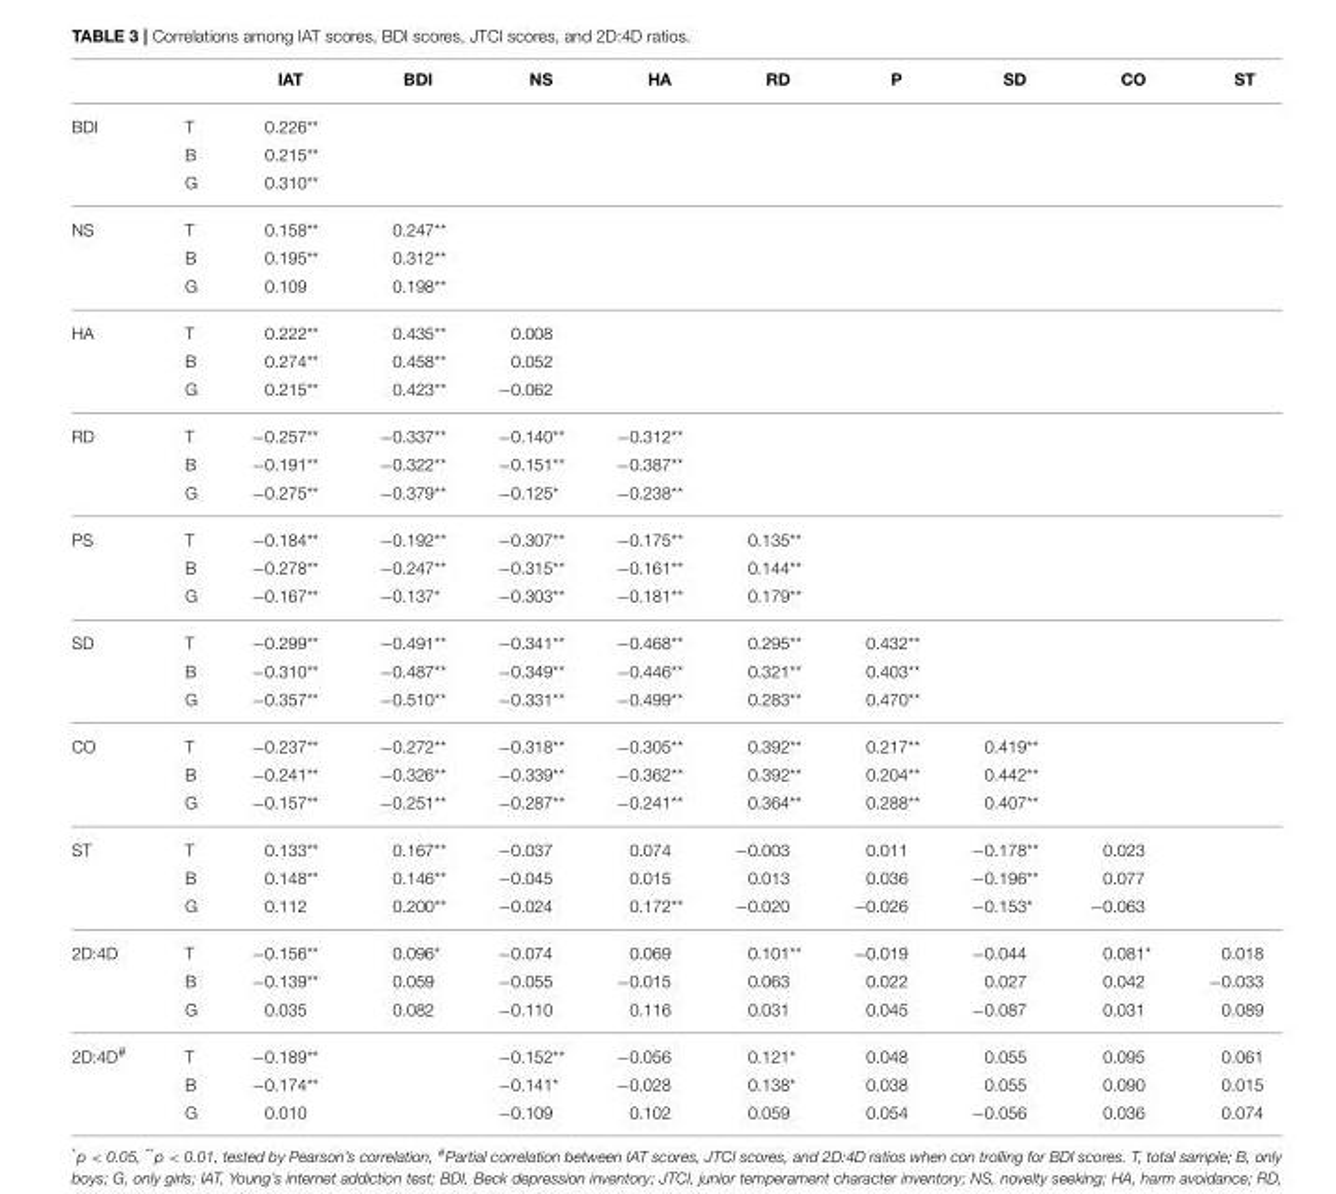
<table><thead><tr><td></td><td></td><td>IAT</td><td>BDI</td><td>NS</td><td>HA</td><td>RD</td><td>P</td><td>SD</td><td>CO</td><td>ST</td></tr></thead><tbody><tr><td rowspan="3">BDI</td><td>T</td><td>0.226**</td><td></td><td></td><td></td><td></td><td></td><td></td><td></td><td></td></tr><tr><td>B</td><td>0.215**</td><td></td><td></td><td></td><td></td><td></td><td></td><td></td><td></td></tr><tr><td>G</td><td>0.310**</td><td></td><td></td><td></td><td></td><td></td><td></td><td></td><td></td></tr><tr><td rowspan="3">NS</td><td>T</td><td>0.158**</td><td>0.247**</td><td></td><td></td><td></td><td></td><td></td><td></td><td></td></tr><tr><td>B</td><td>0.195**</td><td>0.312**</td><td></td><td></td><td></td><td></td><td></td><td></td><td></td></tr><tr><td>G</td><td>0.109</td><td>0.198**</td><td></td><td></td><td></td><td></td><td></td><td></td><td></td></tr><tr><td rowspan="3">HA</td><td>T</td><td>0.222**</td><td>0.435**</td><td>0.008</td><td></td><td></td><td></td><td></td><td></td><td></td></tr><tr><td>B</td><td>0.274**</td><td>0.458**</td><td>0.052</td><td></td><td></td><td></td><td></td><td></td><td></td></tr><tr><td>G</td><td>0.215**</td><td>0.423**</td><td>−0.062</td><td></td><td></td><td></td><td></td><td></td><td></td></tr><tr><td rowspan="3">RD</td><td>T</td><td>−0.257**</td><td>−0.337**</td><td>−0.140**</td><td>−0.312**</td><td></td><td></td><td></td><td></td><td></td></tr><tr><td>B</td><td>−0.191**</td><td>−0.322**</td><td>−0.151**</td><td>−0.387**</td><td></td><td></td><td></td><td></td><td></td></tr><tr><td>G</td><td>−0.275**</td><td>−0.379**</td><td>−0.125*</td><td>−0.238**</td><td></td><td></td><td></td><td></td><td></td></tr><tr><td rowspan="3">PS</td><td>T</td><td>−0.184**</td><td>−0.192**</td><td>−0.307**</td><td>−0.175**</td><td>0.135**</td><td></td><td></td><td></td><td></td></tr><tr><td>B</td><td>−0.278**</td><td>−0.247**</td><td>−0.315**</td><td>−0.161**</td><td>0.144**</td><td></td><td></td><td></td><td></td></tr><tr><td>G</td><td>−0.167**</td><td>−0.137*</td><td>−0.303**</td><td>−0.181**</td><td>0.179**</td><td></td><td></td><td></td><td></td></tr><tr><td rowspan="3">SD</td><td>T</td><td>−0.299**</td><td>−0.491**</td><td>−0.341**</td><td>−0.468**</td><td>0.295**</td><td>0.432**</td><td></td><td></td><td></td></tr><tr><td>B</td><td>−0.310**</td><td>−0.487**</td><td>−0.349**</td><td>−0.446**</td><td>0.321**</td><td>0.403**</td><td></td><td></td><td></td></tr><tr><td>G</td><td>−0.357**</td><td>−0.510**</td><td>−0.331**</td><td>−0.499**</td><td>0.283**</td><td>0.470**</td><td></td><td></td><td></td></tr><tr><td rowspan="3">CO</td><td>T</td><td>−0.237**</td><td>−0.272**</td><td>−0.318**</td><td>−0.305**</td><td>0.392**</td><td>0.217**</td><td>0.419**</td><td></td><td></td></tr><tr><td>B</td><td>−0.241**</td><td>−0.326**</td><td>−0.339**</td><td>−0.362**</td><td>0.392**</td><td>0.204**</td><td>0.442**</td><td></td><td></td></tr><tr><td>G</td><td>−0.157**</td><td>−0.251**</td><td>−0.287**</td><td>−0.241**</td><td>0.364**</td><td>0.288**</td><td>0.407**</td><td></td><td></td></tr><tr><td rowspan="3">ST</td><td>T</td><td>0.133**</td><td>0.167**</td><td>−0.037</td><td>0.074</td><td>−0.003</td><td>0.011</td><td>−0.178**</td><td>0.023</td><td></td></tr><tr><td>B</td><td>0.148**</td><td>0.146**</td><td>−0.045</td><td>0.015</td><td>0.013</td><td>0.036</td><td>−0.196**</td><td>0.077</td><td></td></tr><tr><td>G</td><td>0.112</td><td>0.200**</td><td>−0.024</td><td>0.172**</td><td>−0.020</td><td>−0.026</td><td>−0.153*</td><td>−0.063</td><td></td></tr><tr><td rowspan="3">2D:4D</td><td>T</td><td>−0.156**</td><td>0.096*</td><td>−0.074</td><td>0.069</td><td>0.101**</td><td>−0.019</td><td>−0.044</td><td>0.081*</td><td>0.018</td></tr><tr><td>B</td><td>−0.139**</td><td>0.059</td><td>−0.055</td><td>−0.015</td><td>0.063</td><td>0.022</td><td>0.027</td><td>0.042</td><td>−0.033</td></tr><tr><td>G</td><td>0.035</td><td>0.082</td><td>−0.110</td><td>0.116</td><td>0.031</td><td>0.045</td><td>−0.087</td><td>0.031</td><td>0.089</td></tr><tr><td rowspan="3">2D:4D<sup>#</sup></td><td>T</td><td>−0.189**</td><td></td><td>−0.152**</td><td>−0.056</td><td>0.121*</td><td>0.048</td><td>0.055</td><td>0.095</td><td>0.061</td></tr><tr><td>B</td><td>−0.174**</td><td></td><td>−0.141*</td><td>−0.028</td><td>0.138*</td><td>0.038</td><td>0.055</td><td>0.090</td><td>0.015</td></tr><tr><td>G</td><td>0.010</td><td></td><td>−0.109</td><td>0.102</td><td>0.059</td><td>0.054</td><td>−0.056</td><td>0.036</td><td>0.074</td></tr></tbody></table>